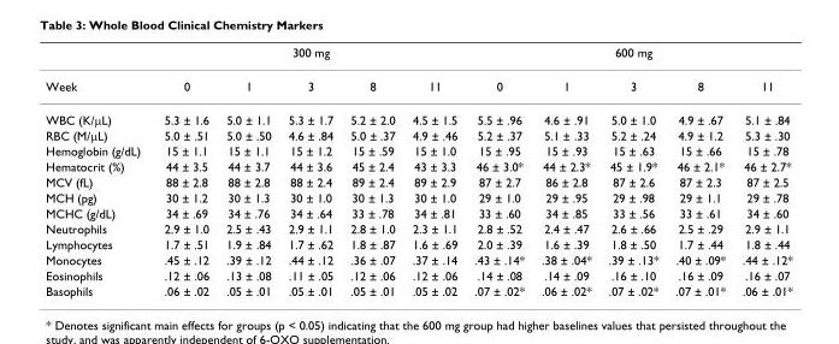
<table><thead><tr><td rowspan="2">Week</td><td colspan="5">300 mg</td><td colspan="5">600 mg</td></tr><tr><td>0</td><td>1</td><td>3</td><td>8</td><td>11</td><td>0</td><td>1</td><td>3</td><td>8</td><td>11</td></tr></thead><tbody><tr><td>WBC (K/µL)</td><td>5.3 ± 1.6</td><td>5.0 ± 1.1</td><td>5.3 ± 1.7</td><td>5.2 ± 2.0</td><td>4.5 ± 1.5</td><td>5.5 ± .96</td><td>4.6 ± .91</td><td>5.0 ± 1.0</td><td>4.9 ± .67</td><td>5.1 ± .84</td></tr><tr><td>RBC (M/µL)</td><td>5.0 ± .51</td><td>5.0 ± .50</td><td>4.6 ± .84</td><td>5.0 ± .37</td><td>4.9 ± .46</td><td>5.2 ± .37</td><td>5.1 ± .33</td><td>5.2 ± .24</td><td>4.9 ± 1.2</td><td>5.3 ± .30</td></tr><tr><td>Hemoglobin (g/dL)</td><td>15 ± 1.1</td><td>15 ± 1.1</td><td>15 ± 1.2</td><td>15 ± .59</td><td>15 ± 1.0</td><td>15 ± .95</td><td>15 ± .93</td><td>15 ± .63</td><td>15 ± .66</td><td>15 ± .78</td></tr><tr><td>Hematocrit (%)</td><td>44 ± 3.5</td><td>44 ± 3.7</td><td>44 ± 3.6</td><td>45 ± 2.4</td><td>43 ± 3.3</td><td>46 ± 3.0*</td><td>44 ± 2.3*</td><td>45 ± 1.9*</td><td>46 ± 2.1*</td><td>46 ± 2.7*</td></tr><tr><td>MCV (fL)</td><td>88 ± 2.8</td><td>88 ± 2.8</td><td>88 ± 2.4</td><td>89 ± 2.4</td><td>89 ± 2.9</td><td>87 ± 2.7</td><td>86 ± 2.8</td><td>87 ± 2.6</td><td>87 ± 2.3</td><td>87 ± 2.5</td></tr><tr><td>MCH (pg)</td><td>30 ± 1.2</td><td>30 ± 1.3</td><td>30 ± 1.0</td><td>30 ± 1.3</td><td>30 ± 1.0</td><td>29 ± 1.0</td><td>29 ± .95</td><td>29 ± .98</td><td>29 ± 1.1</td><td>29 ± .78</td></tr><tr><td>MCHC (g/dL)</td><td>34 ± .69</td><td>34 ± .76</td><td>34 ± .64</td><td>33 ± .78</td><td>34 ± .81</td><td>33 ± .60</td><td>34 ± .85</td><td>33 ± .56</td><td>33 ± .61</td><td>34 ± .60</td></tr><tr><td>Neutrophils</td><td>2.9 ± 1.0</td><td>2.5 ± .43</td><td>2.9 ± 1.1</td><td>2.8 ± 1.0</td><td>2.3 ± 1.1</td><td>2.8 ± .52</td><td>2.4 ± .47</td><td>2.6 ± .66</td><td>2.5 ± .29</td><td>2.9 ± 1.1</td></tr><tr><td>Lymphocytes</td><td>1.7 ± .51</td><td>1.9 ± .84</td><td>1.7 ± .62</td><td>1.8 ± .87</td><td>1.6 ± .69</td><td>2.0 ± .39</td><td>1.6 ± .39</td><td>1.8 ± .50</td><td>1.7 ± .44</td><td>1.8 ± .44</td></tr><tr><td>Monocytes</td><td>.45 ± .12</td><td>.39 ± .12</td><td>.44 ± .12</td><td>.36 ± .07</td><td>.37 ± .14</td><td>.43 ± .14*</td><td>.38 ± .04*</td><td>.39 ± .13*</td><td>.40 ± .09*</td><td>.44 ± .12*</td></tr><tr><td>Eosinophils</td><td>.12 ± .06</td><td>.13 ± .08</td><td>.11 ± .05</td><td>.12 ± .06</td><td>.12 ± .06</td><td>.14 ± .08</td><td>.14 ± .09</td><td>.16 ± .10</td><td>.16 ± .09</td><td>.16 ± .07</td></tr><tr><td>Basophils</td><td>.06 ± .02</td><td>.05 ± .01</td><td>.05 ± .01</td><td>.05 ± .01</td><td>.05 ± .02</td><td>.07 ± .02*</td><td>.06 ± .02*</td><td>.07 ± .02*</td><td>.07 ± .01*</td><td>.06 ± .01*</td></tr></tbody></table>